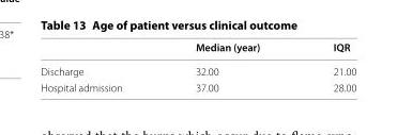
<table><thead><tr><td></td><td>Median (year)</td><td>IQR</td></tr></thead><tbody><tr><td>Discharge</td><td>32.00</td><td>21.00</td></tr><tr><td>Hospital admission</td><td>37.00</td><td>28.00</td></tr></tbody></table>